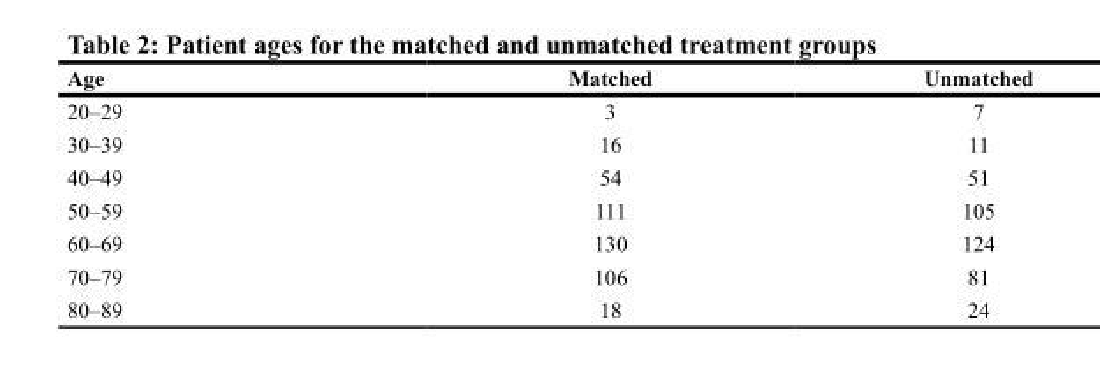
<table><thead><tr><td>Age</td><td>Matched</td><td>Unmatched</td></tr></thead><tbody><tr><td>20–29</td><td>3</td><td>7</td></tr><tr><td>30–39</td><td>16</td><td>11</td></tr><tr><td>40–49</td><td>54</td><td>51</td></tr><tr><td>50–59</td><td>111</td><td>105</td></tr><tr><td>60–69</td><td>130</td><td>124</td></tr><tr><td>70–79</td><td>106</td><td>81</td></tr><tr><td>80–89</td><td>18</td><td>24</td></tr></tbody></table>